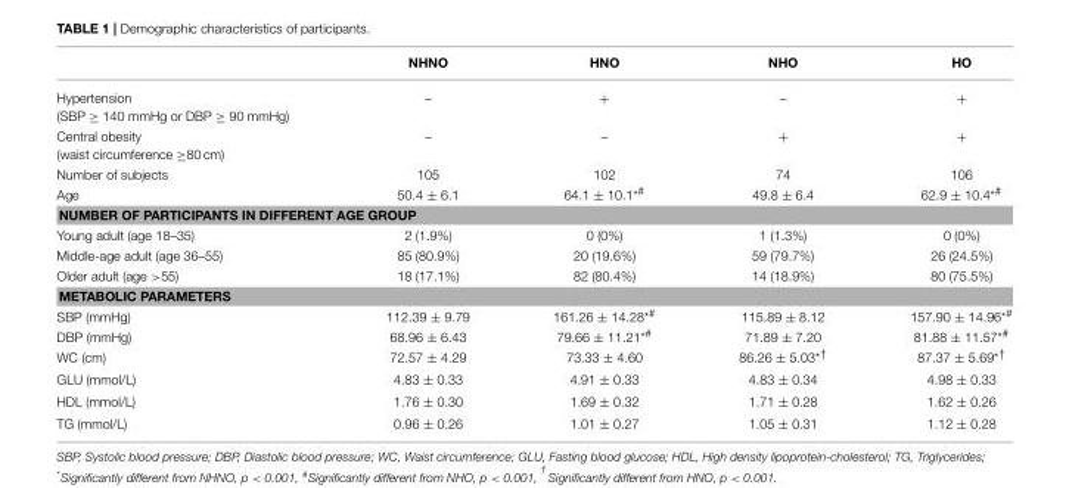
<table><thead><tr><td></td><td>NHNO</td><td>HNO</td><td>NHO</td><td>HO</td></tr></thead><tbody><tr><td>Hypertension (SBP ≥ 140 mmHg or DBP ≥ 90 mmHg)</td><td>–</td><td>+</td><td>–</td><td>+</td></tr><tr><td>Central obesity (waist circumference ≥80 cm)</td><td>–</td><td>–</td><td>+</td><td>+</td></tr><tr><td>Number of subjects</td><td>105</td><td>102</td><td>74</td><td>106</td></tr><tr><td>Age</td><td>50.4 ± 6.1</td><td>64.1 ± 10.1<sup>*#</sup></td><td>49.8 ± 6.4</td><td>62.9 ± 10.4<sup>*#</sup></td></tr><tr><td colspan="5">NUMBER OF PARTICIPANTS IN DIFFERENT AGE GROUP</td></tr><tr><td>Young adult (age 18–35)</td><td>2 (1.9%)</td><td>0 (0%)</td><td>1 (1.3%)</td><td>0 (0%)</td></tr><tr><td>Middle-age adult (age 36–55)</td><td>85 (80.9%)</td><td>20 (19.6%)</td><td>59 (79.7%)</td><td>26 (24.5%)</td></tr><tr><td>Older adult (age &gt;55)</td><td>18 (17.1%)</td><td>82 (80.4%)</td><td>14 (18.9%)</td><td>80 (75.5%)</td></tr><tr><td colspan="5">METABOLIC PARAMETERS</td></tr><tr><td>SBP (mmHg)</td><td>112.39 ± 9.79</td><td>161.26 ± 14.28<sup>*#</sup></td><td>115.89 ± 8.12</td><td>157.90 ± 14.96<sup>*#</sup></td></tr><tr><td>DBP (mmHg)</td><td>68.96 ± 6.43</td><td>79.66 ± 11.21<sup>*#</sup></td><td>71.89 ± 7.20</td><td>81.88 ± 11.57<sup>*#</sup></td></tr><tr><td>WC (cm)</td><td>72.57 ± 4.29</td><td>73.33 ± 4.60</td><td>86.26 ± 5.03<sup>*†</sup></td><td>87.37 ± 5.69<sup>*†</sup></td></tr><tr><td>GLU (mmol/L)</td><td>4.83 ± 0.33</td><td>4.91 ± 0.33</td><td>4.83 ± 0.34</td><td>4.98 ± 0.33</td></tr><tr><td>HDL (mmol/L)</td><td>1.76 ± 0.30</td><td>1.69 ± 0.32</td><td>1.71 ± 0.28</td><td>1.62 ± 0.26</td></tr><tr><td>TG (mmol/L)</td><td>0.96 ± 0.26</td><td>1.01 ± 0.27</td><td>1.05 ± 0.31</td><td>1.12 ± 0.28</td></tr></tbody></table>